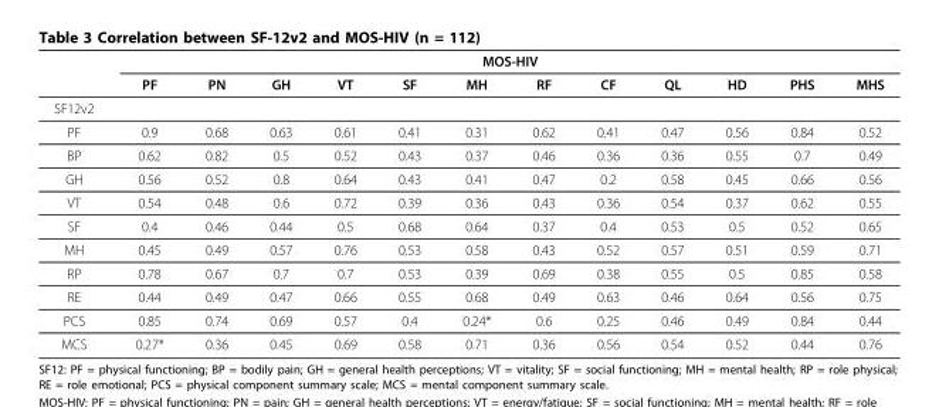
<table><thead><tr><td rowspan="2"></td><td colspan="12">MOS-HIV</td></tr><tr><td>PF</td><td>PN</td><td>GH</td><td>VT</td><td>SF</td><td>MH</td><td>RF</td><td>CF</td><td>QL</td><td>HD</td><td>PHS</td><td>MHS</td></tr></thead><tbody><tr><td colspan="13">SF12v2</td></tr><tr><td>PF</td><td>0.9</td><td>0.68</td><td>0.63</td><td>0.61</td><td>0.41</td><td>0.31</td><td>0.62</td><td>0.41</td><td>0.47</td><td>0.56</td><td>0.84</td><td>0.52</td></tr><tr><td>BP</td><td>0.62</td><td>0.82</td><td>0.5</td><td>0.52</td><td>0.43</td><td>0.37</td><td>0.46</td><td>0.36</td><td>0.36</td><td>0.55</td><td>0.7</td><td>0.49</td></tr><tr><td>GH</td><td>0.56</td><td>0.52</td><td>0.8</td><td>0.64</td><td>0.43</td><td>0.41</td><td>0.47</td><td>0.2</td><td>0.58</td><td>0.45</td><td>0.66</td><td>0.56</td></tr><tr><td>VT</td><td>0.54</td><td>0.48</td><td>0.6</td><td>0.72</td><td>0.39</td><td>0.36</td><td>0.43</td><td>0.36</td><td>0.54</td><td>0.37</td><td>0.62</td><td>0.55</td></tr><tr><td>SF</td><td>0.4</td><td>0.46</td><td>0.44</td><td>0.5</td><td>0.68</td><td>0.64</td><td>0.37</td><td>0.4</td><td>0.53</td><td>0.5</td><td>0.52</td><td>0.65</td></tr><tr><td>MH</td><td>0.45</td><td>0.49</td><td>0.57</td><td>0.76</td><td>0.53</td><td>0.58</td><td>0.43</td><td>0.52</td><td>0.57</td><td>0.51</td><td>0.59</td><td>0.71</td></tr><tr><td>RP</td><td>0.78</td><td>0.67</td><td>0.7</td><td>0.7</td><td>0.53</td><td>0.39</td><td>0.69</td><td>0.38</td><td>0.55</td><td>0.5</td><td>0.85</td><td>0.58</td></tr><tr><td>RE</td><td>0.44</td><td>0.49</td><td>0.47</td><td>0.66</td><td>0.55</td><td>0.68</td><td>0.49</td><td>0.63</td><td>0.46</td><td>0.64</td><td>0.56</td><td>0.75</td></tr><tr><td>PCS</td><td>0.85</td><td>0.74</td><td>0.69</td><td>0.57</td><td>0.4</td><td>0.24*</td><td>0.6</td><td>0.25</td><td>0.46</td><td>0.49</td><td>0.84</td><td>0.44</td></tr><tr><td>MCS</td><td>0.27*</td><td>0.36</td><td>0.45</td><td>0.69</td><td>0.58</td><td>0.71</td><td>0.36</td><td>0.56</td><td>0.54</td><td>0.52</td><td>0.44</td><td>0.76</td></tr></tbody></table>